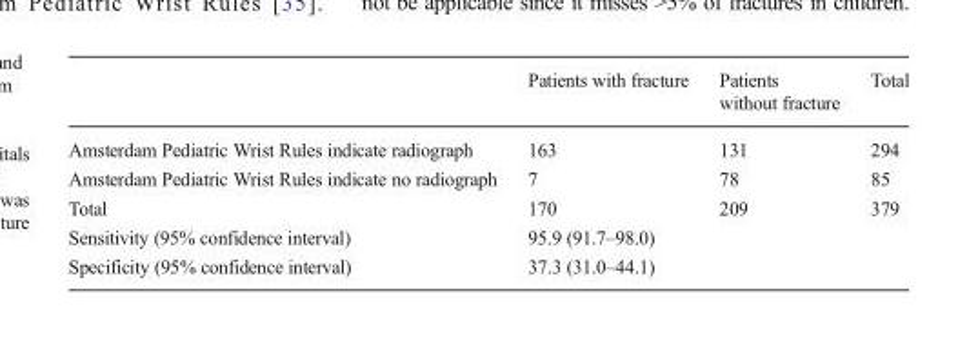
<table><thead><tr><td></td><td>Patients with fracture</td><td>Patients without fracture</td><td>Total</td></tr></thead><tbody><tr><td>Amsterdam Pediatric Wrist Rules indicate radiograph</td><td>163</td><td>131</td><td>294</td></tr><tr><td>Amsterdam Pediatric Wrist Rules indicate no radiograph</td><td>7</td><td>78</td><td>85</td></tr><tr><td>Total</td><td>170</td><td>209</td><td>379</td></tr><tr><td>Sensitivity (95% confidence interval)</td><td colspan="3">95.9 (91.7–98.0)</td></tr><tr><td>Specificity (95% confidence interval)</td><td colspan="3">37.3 (31.0–44.1)</td></tr></tbody></table>